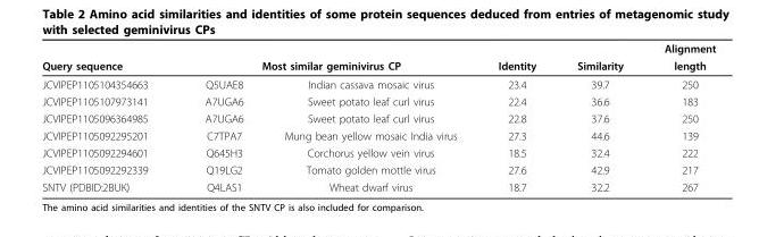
<table><thead><tr><td rowspan="2">Query sequence</td><td></td><td></td><td rowspan="2">Identity</td><td rowspan="2">Similarity</td><td rowspan="2">Alignment length</td></tr><tr><td colspan="2">Most similar geminivirus CP</td></tr></thead><tbody><tr><td>JCVIPEP1105104354663</td><td>Q5UAE8</td><td>Indian cassava mosaic virus</td><td>23.4</td><td>39.7</td><td>250</td></tr><tr><td>JCVIPEP1105107973141</td><td>A7UGA6</td><td>Sweet potato leaf curl virus</td><td>22.4</td><td>36.6</td><td>183</td></tr><tr><td>JCVIPEP1105096364985</td><td>A7UGA6</td><td>Sweet potato leaf curl virus</td><td>22.8</td><td>37.6</td><td>250</td></tr><tr><td>JCVIPEP1105092295201</td><td>C7TPA7</td><td>Mung bean yellow mosaic India virus</td><td>27.3</td><td>44.6</td><td>139</td></tr><tr><td>JCVIPEP1105092294601</td><td>Q645H3</td><td>Corchorus yellow vein virus</td><td>18.5</td><td>32.4</td><td>222</td></tr><tr><td>JCVIPEP1105092292339</td><td>Q19LG2</td><td>Tomato golden mottle virus</td><td>27.6</td><td>42.9</td><td>217</td></tr><tr><td>SNTV (PDBID:2BUK)</td><td>Q4LAS1</td><td>Wheat dwarf virus</td><td>18.7</td><td>32.2</td><td>267</td></tr></tbody></table>